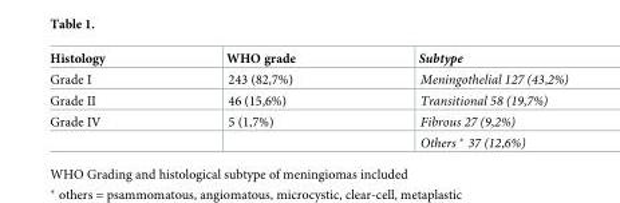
<table><thead><tr><td>Histology</td><td>WHO grade</td><td>Subtype</td></tr></thead><tbody><tr><td>Grade I</td><td>243 (82,7%)</td><td>Meningothelial 127 (43,2%)</td></tr><tr><td>Grade II</td><td>46 (15,6%)</td><td>Transitional 58 (19,7%)</td></tr><tr><td rowspan="2">Grade IV</td><td>5 (1,7%)</td><td>Fibrous 27 (9,2%)</td></tr><tr><td></td><td>Others * 37 (12,6%)</td></tr></tbody></table>